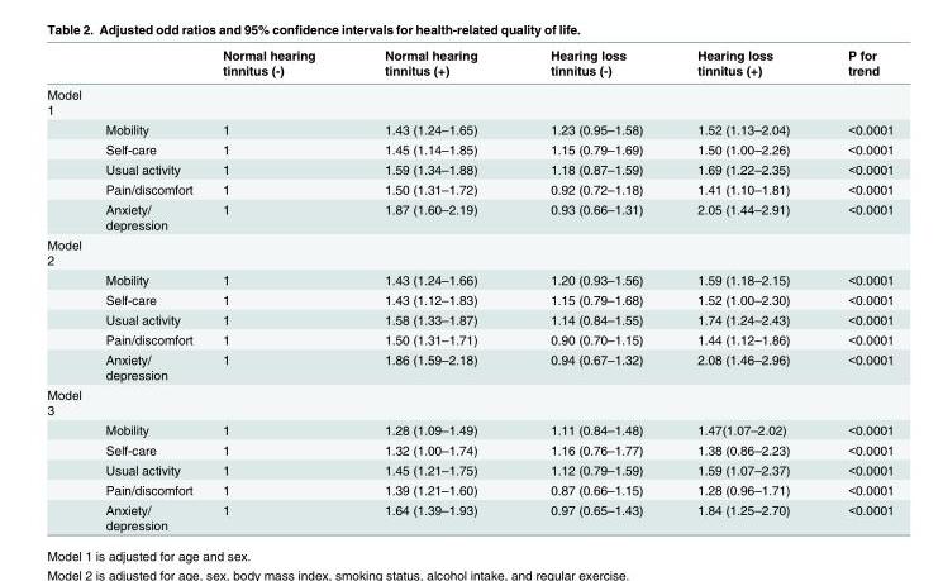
<table><thead><tr><td></td><td></td><td>Normal hearing tinnitus (-)</td><td>Normal hearing tinnitus (+)</td><td>Hearing loss tinnitus (-)</td><td>Hearing loss tinnitus (+)</td><td>P for trend</td></tr></thead><tbody><tr><td colspan="7">Model 1</td></tr><tr><td></td><td>Mobility</td><td>1</td><td>1.43 (1.24–1.65)</td><td>1.23 (0.95–1.58)</td><td>1.52 (1.13–2.04)</td><td>&lt;0.0001</td></tr><tr><td></td><td>Self-care</td><td>1</td><td>1.45 (1.14–1.85)</td><td>1.15 (0.79–1.69)</td><td>1.50 (1.00–2.26)</td><td>&lt;0.0001</td></tr><tr><td></td><td>Usual activity</td><td>1</td><td>1.59 (1.34–1.88)</td><td>1.18 (0.87–1.59)</td><td>1.69 (1.22–2.35)</td><td>&lt;0.0001</td></tr><tr><td></td><td>Pain/discomfort</td><td>1</td><td>1.50 (1.31–1.72)</td><td>0.92 (0.72–1.18)</td><td>1.41 (1.10–1.81)</td><td>&lt;0.0001</td></tr><tr><td></td><td>Anxiety/ depression</td><td>1</td><td>1.87 (1.60–2.19)</td><td>0.93 (0.66–1.31)</td><td>2.05 (1.44–2.91)</td><td>&lt;0.0001</td></tr><tr><td colspan="7">Model 2</td></tr><tr><td></td><td>Mobility</td><td>1</td><td>1.43 (1.24–1.66)</td><td>1.20 (0.93–1.56)</td><td>1.59 (1.18–2.15)</td><td>&lt;0.0001</td></tr><tr><td></td><td>Self-care</td><td>1</td><td>1.43 (1.12–1.83)</td><td>1.15 (0.79–1.68)</td><td>1.52 (1.00–2.30)</td><td>&lt;0.0001</td></tr><tr><td></td><td>Usual activity</td><td>1</td><td>1.58 (1.33–1.87)</td><td>1.14 (0.84–1.55)</td><td>1.74 (1.24–2.43)</td><td>&lt;0.0001</td></tr><tr><td></td><td>Pain/discomfort</td><td>1</td><td>1.50 (1.31–1.71)</td><td>0.90 (0.70–1.15)</td><td>1.44 (1.12–1.86)</td><td>&lt;0.0001</td></tr><tr><td></td><td>Anxiety/ depression</td><td>1</td><td>1.86 (1.59–2.18)</td><td>0.94 (0.67–1.32)</td><td>2.08 (1.46–2.96)</td><td>&lt;0.0001</td></tr><tr><td colspan="7">Model 3</td></tr><tr><td></td><td>Mobility</td><td>1</td><td>1.28 (1.09–1.49)</td><td>1.11 (0.84–1.48)</td><td>1.47(1.07–2.02)</td><td>&lt;0.0001</td></tr><tr><td></td><td>Self-care</td><td>1</td><td>1.32 (1.00–1.74)</td><td>1.16 (0.76–1.77)</td><td>1.38 (0.86–2.23)</td><td>&lt;0.0001</td></tr><tr><td></td><td>Usual activity</td><td>1</td><td>1.45 (1.21–1.75)</td><td>1.12 (0.79–1.59)</td><td>1.59 (1.07–2.37)</td><td>&lt;0.0001</td></tr><tr><td></td><td>Pain/discomfort</td><td>1</td><td>1.39 (1.21–1.60)</td><td>0.87 (0.66–1.15)</td><td>1.28 (0.96–1.71)</td><td>&lt;0.0001</td></tr><tr><td></td><td>Anxiety/ depression</td><td>1</td><td>1.64 (1.39–1.93)</td><td>0.97 (0.65–1.43)</td><td>1.84 (1.25–2.70)</td><td>&lt;0.0001</td></tr></tbody></table>